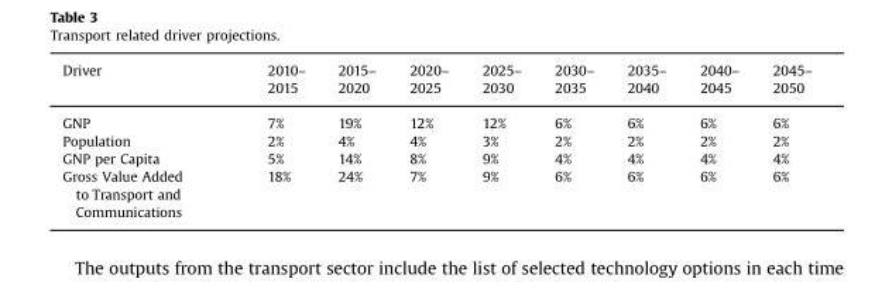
<table><thead><tr><td>Driver</td><td>2010– 2015</td><td>2015– 2020</td><td>2020– 2025</td><td>2025– 2030</td><td>2030– 2035</td><td>2035– 2040</td><td>2040– 2045</td><td>2045– 2050</td></tr></thead><tbody><tr><td>GNP</td><td>7%</td><td>19%</td><td>12%</td><td>12%</td><td>6%</td><td>6%</td><td>6%</td><td>6%</td></tr><tr><td>Population</td><td>2%</td><td>4%</td><td>4%</td><td>3%</td><td>2%</td><td>2%</td><td>2%</td><td>2%</td></tr><tr><td>GNP per Capita</td><td>5%</td><td>14%</td><td>8%</td><td>9%</td><td>4%</td><td>4%</td><td>4%</td><td>4%</td></tr><tr><td>Gross Value Added to Transport and Communications</td><td>18%</td><td>24%</td><td>7%</td><td>9%</td><td>6%</td><td>6%</td><td>6%</td><td>6%</td></tr></tbody></table>